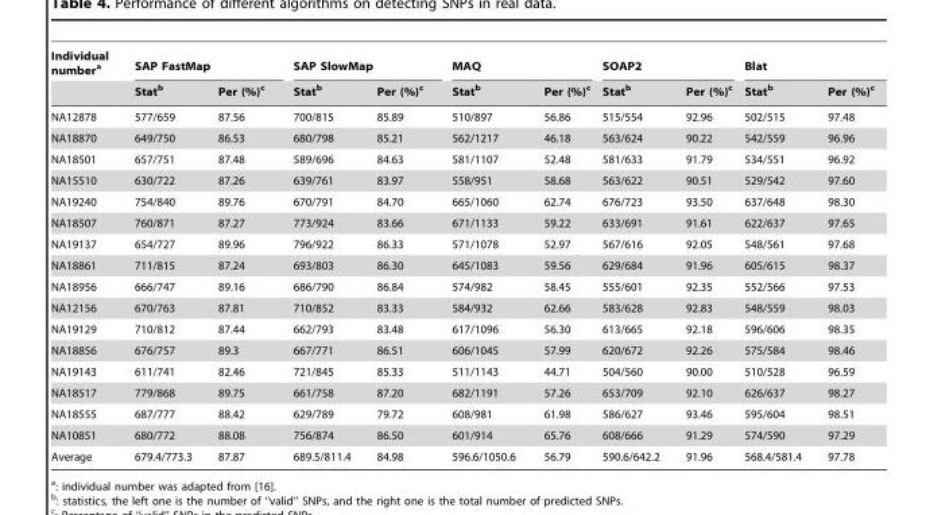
<table><thead><tr><td rowspan="2">Individual number<sup>a</sup></td><td colspan="2">SAP FastMap</td><td colspan="2">SAP SlowMap</td><td colspan="2">MAQ</td><td colspan="2">SOAP2</td><td colspan="2">Blat</td></tr><tr><td>Stat<sup>b</sup></td><td>Per (%)<sup>c</sup></td><td>Stat<sup>b</sup></td><td>Per (%)<sup>c</sup></td><td>Stat<sup>b</sup></td><td>Per (%)<sup>c</sup></td><td>Stat<sup>b</sup></td><td>Per (%)<sup>c</sup></td><td>Stat<sup>b</sup></td><td>Per (%)<sup>c</sup></td></tr></thead><tbody><tr><td>NA12878</td><td>577/659</td><td>87.56</td><td>700/815</td><td>85.89</td><td>510/897</td><td>56.86</td><td>515/554</td><td>92.96</td><td>502/515</td><td>97.48</td></tr><tr><td>NA18870</td><td>649/750</td><td>86.53</td><td>680/798</td><td>85.21</td><td>562/1217</td><td>46.18</td><td>563/624</td><td>90.22</td><td>542/559</td><td>96.96</td></tr><tr><td>NA18501</td><td>657/751</td><td>87.48</td><td>589/696</td><td>84.63</td><td>581/1107</td><td>52.48</td><td>581/633</td><td>91.79</td><td>534/551</td><td>96.92</td></tr><tr><td>NA15510</td><td>630/722</td><td>87.26</td><td>639/761</td><td>83.97</td><td>558/951</td><td>58.68</td><td>563/622</td><td>90.51</td><td>529/542</td><td>97.60</td></tr><tr><td>NA19240</td><td>754/840</td><td>89.76</td><td>670/791</td><td>84.70</td><td>665/1060</td><td>62.74</td><td>676/723</td><td>93.50</td><td>637/648</td><td>98.30</td></tr><tr><td>NA18507</td><td>760/871</td><td>87.27</td><td>773/924</td><td>83.66</td><td>671/1133</td><td>59.22</td><td>633/691</td><td>91.61</td><td>622/637</td><td>97.65</td></tr><tr><td>NA19137</td><td>654/727</td><td>89.96</td><td>796/922</td><td>86.33</td><td>571/1078</td><td>52.97</td><td>567/616</td><td>92.05</td><td>548/561</td><td>97.68</td></tr><tr><td>NA18861</td><td>711/815</td><td>87.24</td><td>693/803</td><td>86.30</td><td>645/1083</td><td>59.56</td><td>629/684</td><td>91.96</td><td>605/615</td><td>98.37</td></tr><tr><td>NA18956</td><td>666/747</td><td>89.16</td><td>686/790</td><td>86.84</td><td>574/982</td><td>58.45</td><td>555/601</td><td>92.35</td><td>552/566</td><td>97.53</td></tr><tr><td>NA12156</td><td>670/763</td><td>87.81</td><td>710/852</td><td>83.33</td><td>584/932</td><td>62.66</td><td>583/628</td><td>92.83</td><td>548/559</td><td>98.03</td></tr><tr><td>NA19129</td><td>710/812</td><td>87.44</td><td>662/793</td><td>83.48</td><td>617/1096</td><td>56.30</td><td>613/665</td><td>92.18</td><td>596/606</td><td>98.35</td></tr><tr><td>NA18856</td><td>676/757</td><td>89.3</td><td>667/771</td><td>86.51</td><td>606/1045</td><td>57.99</td><td>620/672</td><td>92.26</td><td>575/584</td><td>98.46</td></tr><tr><td>NA19143</td><td>611/741</td><td>82.46</td><td>721/845</td><td>85.33</td><td>511/1143</td><td>44.71</td><td>504/560</td><td>90.00</td><td>510/528</td><td>96.59</td></tr><tr><td>NA18517</td><td>779/868</td><td>89.75</td><td>661/758</td><td>87.20</td><td>682/1191</td><td>57.26</td><td>653/709</td><td>92.10</td><td>626/637</td><td>98.27</td></tr><tr><td>NA18555</td><td>687/777</td><td>88.42</td><td>629/789</td><td>79.72</td><td>608/981</td><td>61.98</td><td>586/627</td><td>93.46</td><td>595/604</td><td>98.51</td></tr><tr><td>NA10851</td><td>680/772</td><td>88.08</td><td>756/874</td><td>86.50</td><td>601/914</td><td>65.76</td><td>608/666</td><td>91.29</td><td>574/590</td><td>97.29</td></tr><tr><td>Average</td><td>679.4/773.3</td><td>87.87</td><td>689.5/811.4</td><td>84.98</td><td>596.6/1050.6</td><td>56.79</td><td>590.6/642.2</td><td>91.96</td><td>568.4/581.4</td><td>97.78</td></tr></tbody></table>